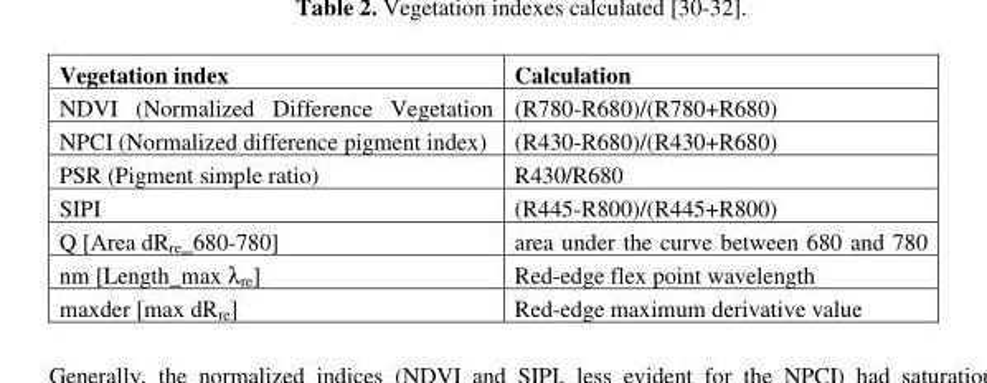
<table><thead><tr><td>Vegetation index</td><td>Calculation</td></tr></thead><tbody><tr><td>NDVI (Normalized Difference Vegetation</td><td>(R780-R680)/(R780+R680)</td></tr><tr><td>NPCI (Normalized difference pigment index)</td><td>(R430-R680)/(R430+R680)</td></tr><tr><td>PSR (Pigment simple ratio)</td><td>R430/R680</td></tr><tr><td>SIPI</td><td>(R445-R800)/(R445+R800)</td></tr><tr><td>Q [Area dRre_680-780]</td><td>area under the curve between 680 and 780</td></tr><tr><td>nm [Length_max λ<sub>re</sub>]</td><td>Red-edge flex point wavelength</td></tr><tr><td>maxder [max dR<sub>re</sub>]</td><td>Red-edge maximum derivative value</td></tr></tbody></table>